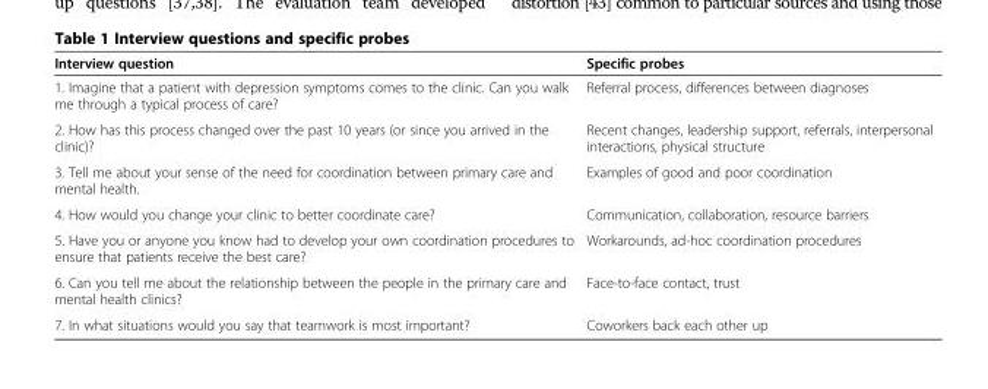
<table><thead><tr><td>Interview question</td><td>Specific probes</td></tr></thead><tbody><tr><td>1. Imagine that a patient with depression symptoms comes to the clinic. Can you walk me through a typical process of care?</td><td>Referral process, differences between diagnoses</td></tr><tr><td>2. How has this process changed over the past 10 years (or since you arrived in the clinic)?</td><td>Recent changes, leadership support, referrals, interpersonal interactions, physical structure</td></tr><tr><td>3. Tell me about your sense of the need for coordination between primary care and mental health.</td><td>Examples of good and poor coordination</td></tr><tr><td>4. How would you change your clinic to better coordinate care?</td><td>Communication, collaboration, resource barriers</td></tr><tr><td>5. Have you or anyone you know had to develop your own coordination procedures to ensure that patients receive the best care?</td><td>Workarounds, ad-hoc coordination procedures</td></tr><tr><td>6. Can you tell me about the relationship between the people in the primary care and mental health clinics?</td><td>Face-to-face contact, trust</td></tr><tr><td>7. In what situations would you say that teamwork is most important?</td><td>Coworkers back each other up</td></tr></tbody></table>